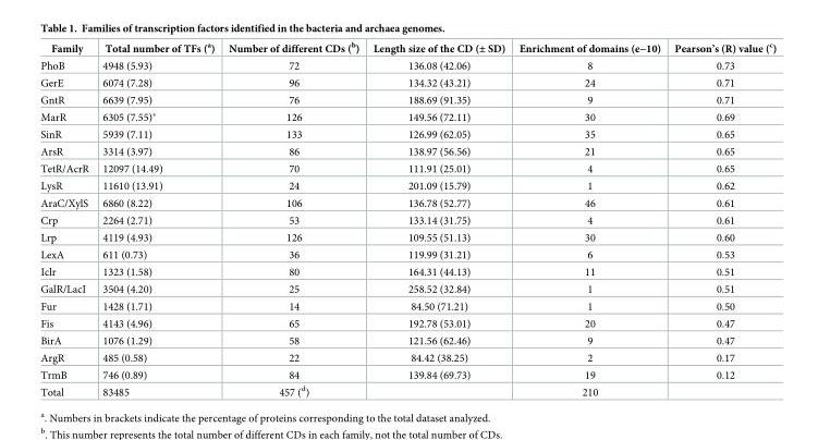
<table><thead><tr><td>Family</td><td>Total number of TFs (<sup>a</sup>)</td><td>Number of different CDs (<sup>b</sup>)</td><td>Length size of the CD (± SD)</td><td>Enrichment of domains (e−10)</td><td>Pearson’s (R) value (<sup>c</sup>)</td></tr></thead><tbody><tr><td>PhoB</td><td>4948 (5.93)</td><td>72</td><td>136.08 (42.06)</td><td>8</td><td>0.73</td></tr><tr><td>GerE</td><td>6074 (7.28)</td><td>96</td><td>134.32 (43.21)</td><td>24</td><td>0.71</td></tr><tr><td>GntR</td><td>6639 (7.95)</td><td>76</td><td>188.69 (91.35)</td><td>9</td><td>0.71</td></tr><tr><td>MarR</td><td>6305 (7.55)*</td><td>126</td><td>149.56 (72.11)</td><td>30</td><td>0.69</td></tr><tr><td>SinR</td><td>5939 (7.11)</td><td>133</td><td>126.99 (62.05)</td><td>35</td><td>0.65</td></tr><tr><td>ArsR</td><td>3314 (3.97)</td><td>86</td><td>138.97 (56.56)</td><td>21</td><td>0.65</td></tr><tr><td>TetR/AcrR</td><td>12097 (14.49)</td><td>70</td><td>111.91 (25.01)</td><td>4</td><td>0.65</td></tr><tr><td>LysR</td><td>11610 (13.91)</td><td>24</td><td>201.09 (15.79)</td><td>1</td><td>0.62</td></tr><tr><td>AraC/XylS</td><td>6860 (8.22)</td><td>106</td><td>136.78 (52.77)</td><td>46</td><td>0.61</td></tr><tr><td>Crp</td><td>2264 (2.71)</td><td>53</td><td>133.14 (31.75)</td><td>4</td><td>0.61</td></tr><tr><td>Lrp</td><td>4119 (4.93)</td><td>126</td><td>109.55 (51.13)</td><td>30</td><td>0.60</td></tr><tr><td>LexA</td><td>611 (0.73)</td><td>36</td><td>119.99 (31.21)</td><td>6</td><td>0.53</td></tr><tr><td>Iclr</td><td>1323 (1.58)</td><td>80</td><td>164.31 (44.13)</td><td>11</td><td>0.51</td></tr><tr><td>GalR/LacI</td><td>3504 (4.20)</td><td>25</td><td>258.52 (32.84)</td><td>1</td><td>0.51</td></tr><tr><td>Fur</td><td>1428 (1.71)</td><td>14</td><td>84.50 (71.21)</td><td>1</td><td>0.50</td></tr><tr><td>Fis</td><td>4143 (4.96)</td><td>65</td><td>192.78 (53.01)</td><td>20</td><td>0.47</td></tr><tr><td>BirA</td><td>1076 (1.29)</td><td>58</td><td>121.56 (62.46)</td><td>9</td><td>0.47</td></tr><tr><td>ArgR</td><td>485 (0.58)</td><td>22</td><td>84.42 (38.25)</td><td>2</td><td>0.17</td></tr><tr><td>TrmB</td><td>746 (0.89)</td><td>84</td><td>139.84 (69.73)</td><td>19</td><td>0.12</td></tr><tr><td>Total</td><td>83485</td><td>457 (<sup>d</sup>)</td><td></td><td>210</td><td></td></tr></tbody></table>